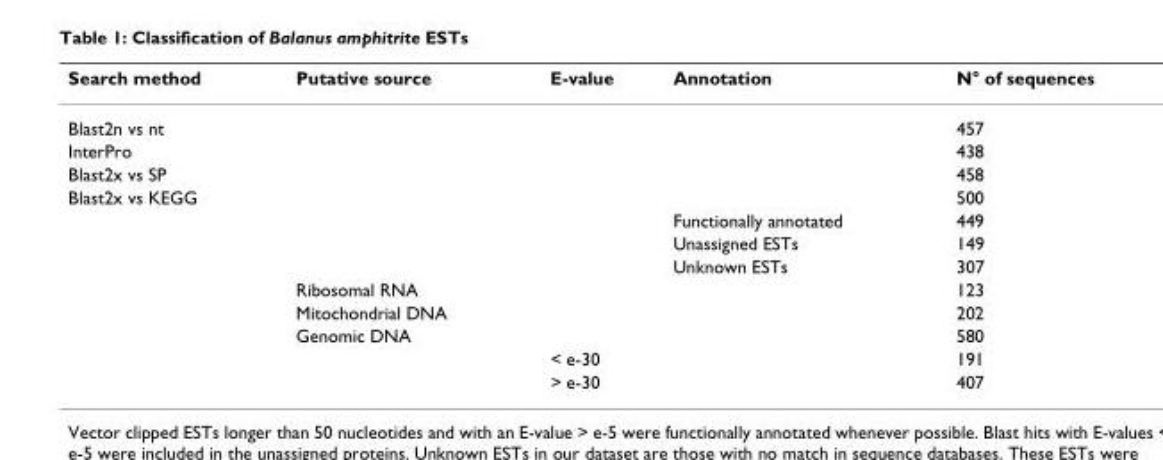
<table><thead><tr><td>Search method</td><td>Putative source</td><td>E-value</td><td>Annotation</td><td>N° of sequences</td></tr></thead><tbody><tr><td>Blast2n vs nt</td><td></td><td></td><td></td><td>457</td></tr><tr><td>InterPro</td><td></td><td></td><td></td><td>438</td></tr><tr><td>Blast2x vs SP</td><td></td><td></td><td></td><td>458</td></tr><tr><td rowspan="9">Blast2x vs KEGG</td><td></td><td></td><td></td><td>500</td></tr><tr><td></td><td></td><td>Functionally annotated</td><td>449</td></tr><tr><td></td><td></td><td>Unassigned ESTs</td><td>149</td></tr><tr><td></td><td></td><td>Unknown ESTs</td><td>307</td></tr><tr><td>Ribosomal RNA</td><td></td><td></td><td>123</td></tr><tr><td>Mitochondrial DNA</td><td></td><td></td><td>202</td></tr><tr><td>Genomic DNA</td><td></td><td></td><td>580</td></tr><tr><td></td><td>&lt; e-30</td><td></td><td>191</td></tr><tr><td></td><td>&gt; e-30</td><td></td><td>407</td></tr></tbody></table>